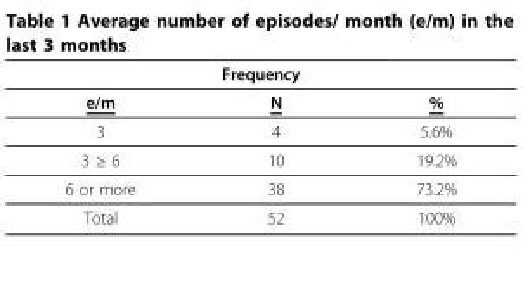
<table><thead><tr><td colspan="3">Frequency</td></tr><tr><td>e/m</td><td>N</td><td>%</td></tr></thead><tbody><tr><td>3</td><td>4</td><td>5.6%</td></tr><tr><td>3 ≥ 6</td><td>10</td><td>19.2%</td></tr><tr><td>6 or more</td><td>38</td><td>73.2%</td></tr><tr><td>Total</td><td>52</td><td>100%</td></tr></tbody></table>